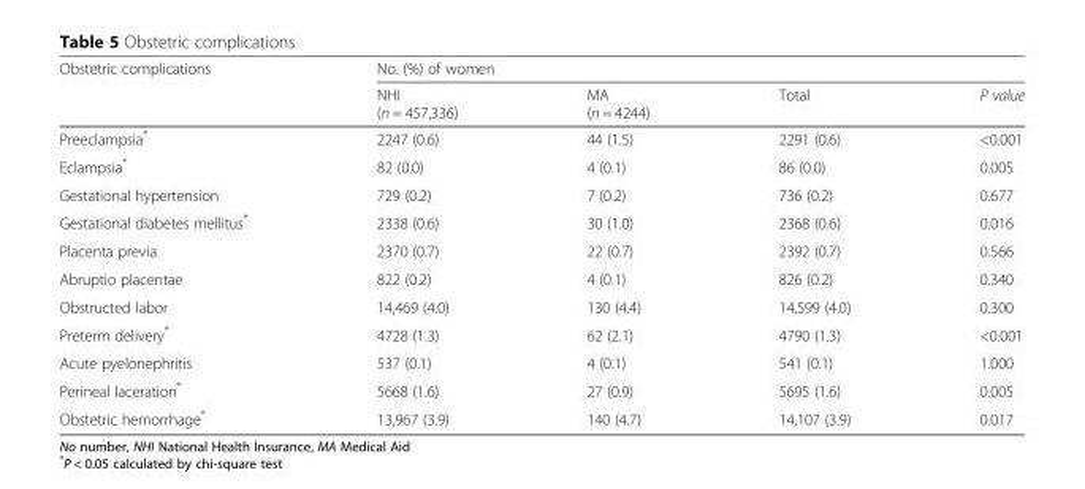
<table><thead><tr><td rowspan="2">Obstetric complications</td><td colspan="4">No. (%) of women</td></tr><tr><td>NHI (n = 457,336)</td><td>MA (n = 4244)</td><td>Total</td><td>P value</td></tr></thead><tbody><tr><td>Preeclampsia*</td><td>2247 (0.6)</td><td>44 (1.5)</td><td>2291 (0.6)</td><td>&lt;0.001</td></tr><tr><td>Eclampsia*</td><td>82 (0.0)</td><td>4 (0.1)</td><td>86 (0.0)</td><td>0.005</td></tr><tr><td>Gestational hypertension</td><td>729 (0.2)</td><td>7 (0.2)</td><td>736 (0.2)</td><td>0.677</td></tr><tr><td>Gestational diabetes mellitus*</td><td>2338 (0.6)</td><td>30 (1.0)</td><td>2368 (0.6)</td><td>0.016</td></tr><tr><td>Placenta previa</td><td>2370 (0.7)</td><td>22 (0.7)</td><td>2392 (0.7)</td><td>0.566</td></tr><tr><td>Abruptio placentae</td><td>822 (0.2)</td><td>4 (0.1)</td><td>826 (0.2)</td><td>0.340</td></tr><tr><td>Obstructed labor</td><td>14,469 (4.0)</td><td>130 (4.4)</td><td>14,599 (4.0)</td><td>0.300</td></tr><tr><td>Preterm delivery*</td><td>4728 (1.3)</td><td>62 (2.1)</td><td>4790 (1.3)</td><td>&lt;0.001</td></tr><tr><td>Acute pyelonephritis</td><td>537 (0.1)</td><td>4 (0.1)</td><td>541 (0.1)</td><td>1.000</td></tr><tr><td>Perineal laceration*</td><td>5668 (1.6)</td><td>27 (0.9)</td><td>5695 (1.6)</td><td>0.005</td></tr><tr><td>Obstetric hemorrhage*</td><td>13,967 (3.9)</td><td>140 (4.7)</td><td>14,107 (3.9)</td><td>0.017</td></tr></tbody></table>